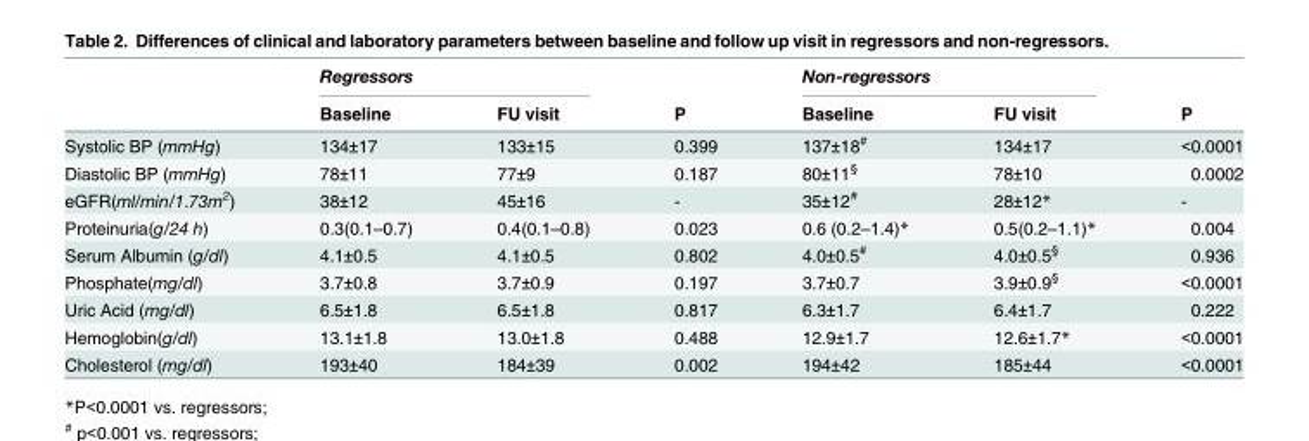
<table><thead><tr><td rowspan="2"></td><td colspan="2">Regressors</td><td rowspan="2">P</td><td colspan="2">Non-regressors</td><td rowspan="2">P</td></tr><tr><td>Baseline</td><td>FU visit</td><td>Baseline</td><td>FU visit</td></tr></thead><tbody><tr><td>Systolic BP (mmHg)</td><td>134±17</td><td>133±15</td><td>0.399</td><td>137±18<sup>#</sup></td><td>134±17</td><td>&lt;0.0001</td></tr><tr><td>Diastolic BP (mmHg)</td><td>78±11</td><td>77±9</td><td>0.187</td><td>80±11<sup>§</sup></td><td>78±10</td><td>0.0002</td></tr><tr><td>eGFR(ml/min/1.73m<sup>2</sup>)</td><td>38±12</td><td>45±16</td><td>-</td><td>35±12<sup>#</sup></td><td>28±12*</td><td>-</td></tr><tr><td>Proteinuria(g/24 h)</td><td>0.3(0.1–0.7)</td><td>0.4(0.1–0.8)</td><td>0.023</td><td>0.6 (0.2–1.4)*</td><td>0.5(0.2–1.1)*</td><td>0.004</td></tr><tr><td>Serum Albumin (g/dl)</td><td>4.1±0.5</td><td>4.1±0.5</td><td>0.802</td><td>4.0±0.5<sup>#</sup></td><td>4.0±0.5<sup>§</sup></td><td>0.936</td></tr><tr><td>Phosphate(mg/dl)</td><td>3.7±0.8</td><td>3.7±0.9</td><td>0.197</td><td>3.7±0.7</td><td>3.9±0.9<sup>§</sup></td><td>&lt;0.0001</td></tr><tr><td>Uric Acid (mg/dl)</td><td>6.5±1.8</td><td>6.5±1.8</td><td>0.817</td><td>6.3±1.7</td><td>6.4±1.7</td><td>0.222</td></tr><tr><td>Hemoglobin(g/dl)</td><td>13.1±1.8</td><td>13.0±1.8</td><td>0.488</td><td>12.9±1.7</td><td>12.6±1.7*</td><td>&lt;0.0001</td></tr><tr><td>Cholesterol (mg/dl)</td><td>193±40</td><td>184±39</td><td>0.002</td><td>194±42</td><td>185±44</td><td>&lt;0.0001</td></tr></tbody></table>